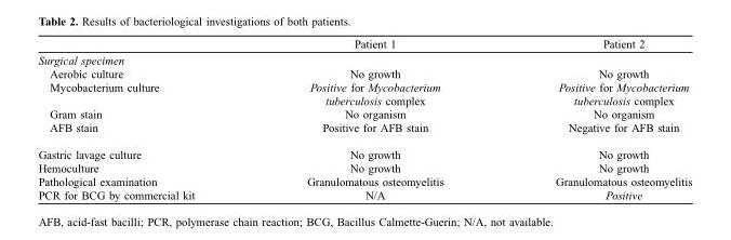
<table><thead><tr><td></td><td>Patient 1</td><td>Patient 2</td></tr></thead><tbody><tr><td colspan="3">Surgical specimen</td></tr><tr><td>Aerobic culture</td><td>No growth</td><td>No growth</td></tr><tr><td rowspan="2">Mycobacterium culture</td><td>Positive for Mycobacterium</td><td>Positive for Mycobacterium</td></tr><tr><td>tuberculosis complex</td><td>tuberculosis complex</td></tr><tr><td>Gram stain</td><td>No organism</td><td>No organism</td></tr><tr><td>AFB stain</td><td>Positive for AFB stain</td><td>Negative for AFB stain</td></tr><tr><td>Gastric lavage culture</td><td>No growth</td><td>No growth</td></tr><tr><td>Hemoculture</td><td>No growth</td><td>No growth</td></tr><tr><td>Pathological examination</td><td>Granulomatous osteomyelitis</td><td>Granulomatous osteomyelitis</td></tr><tr><td>PCR for BCG by commercial kit</td><td>N/A</td><td>Positive</td></tr></tbody></table>